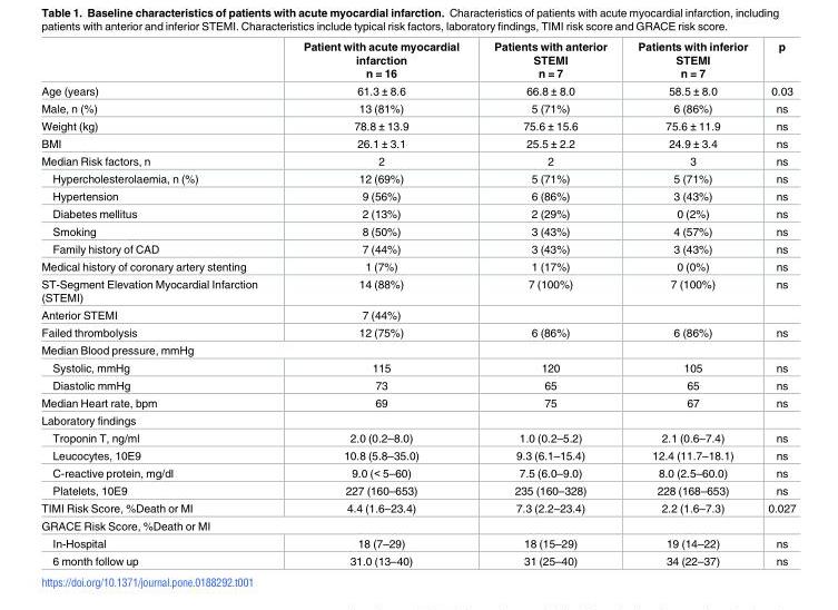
<table><thead><tr><td></td><td>Patient with acute myocardial infarction n = 16</td><td>Patients with anterior STEMI n = 7</td><td>Patients with inferior STEMI n = 7</td><td>p</td></tr></thead><tbody><tr><td>Age (years)</td><td>61.3 ± 8.6</td><td>66.8 ± 8.0</td><td>58.5 ± 8.0</td><td>0.03</td></tr><tr><td>Male, n (%)</td><td>13 (81%)</td><td>5 (71%)</td><td>6 (86%)</td><td>ns</td></tr><tr><td>Weight (kg)</td><td>78.8 ± 13.9</td><td>75.6 ± 15.6</td><td>75.6 ± 11.9</td><td>ns</td></tr><tr><td>BMI</td><td>26.1 ± 3.1</td><td>25.5 ± 2.2</td><td>24.9 ± 3.4</td><td>ns</td></tr><tr><td>Median Risk factors, n</td><td>2</td><td>2</td><td>3</td><td>ns</td></tr><tr><td>Hypercholesterolaemia, n (%)</td><td>12 (69%)</td><td>5 (71%)</td><td>5 (71%)</td><td>ns</td></tr><tr><td>Hypertension</td><td>9 (56%)</td><td>6 (86%)</td><td>3 (43%)</td><td>ns</td></tr><tr><td>Diabetes mellitus</td><td>2 (13%)</td><td>2 (29%)</td><td>0 (2%)</td><td>ns</td></tr><tr><td>Smoking</td><td>8 (50%)</td><td>3 (43%)</td><td>4 (57%)</td><td>ns</td></tr><tr><td>Family history of CAD</td><td>7 (44%)</td><td>3 (43%)</td><td>3 (43%)</td><td>ns</td></tr><tr><td>Medical history of coronary artery stenting</td><td>1 (7%)</td><td>1 (17%)</td><td>0 (0%)</td><td>ns</td></tr><tr><td>ST-Segment Elevation Myocardial Infarction (STEMI)</td><td>14 (88%)</td><td>7 (100%)</td><td>7 (100%)</td><td>ns</td></tr><tr><td>Anterior STEMI</td><td>7 (44%)</td><td></td><td></td><td></td></tr><tr><td>Failed thrombolysis</td><td>12 (75%)</td><td>6 (86%)</td><td>6 (86%)</td><td>ns</td></tr><tr><td colspan="5">Median Blood pressure, mmHg</td></tr><tr><td>Systolic, mmHg</td><td>115</td><td>120</td><td>105</td><td>ns</td></tr><tr><td>Diastolic mmHg</td><td>73</td><td>65</td><td>65</td><td>ns</td></tr><tr><td>Median Heart rate, bpm</td><td>69</td><td>75</td><td>67</td><td>ns</td></tr><tr><td colspan="5">Laboratory findings</td></tr><tr><td>Troponin T, ng/ml</td><td>2.0 (0.2–8.0)</td><td>1.0 (0.2–5.2)</td><td>2.1 (0.6–7.4)</td><td>ns</td></tr><tr><td>Leucocytes, 10E9</td><td>10.8 (5.8–35.0)</td><td>9.3 (6.1–15.4)</td><td>12.4 (11.7–18.1)</td><td>ns</td></tr><tr><td>C-reactive protein, mg/dl</td><td>9.0 (&lt; 5–60)</td><td>7.5 (6.0–9.0)</td><td>8.0 (2.5–60.0)</td><td>ns</td></tr><tr><td>Platelets, 10E9</td><td>227 (160–653)</td><td>235 (160–328)</td><td>228 (168–653)</td><td>ns</td></tr><tr><td>TIMI Risk Score, %Death or MI</td><td>4.4 (1.6–23.4)</td><td>7.3 (2.2–23.4)</td><td>2.2 (1.6–7.3)</td><td>0.027</td></tr><tr><td colspan="5">GRACE Risk Score, %Death or MI</td></tr><tr><td>In-Hospital</td><td>18 (7–29)</td><td>18 (15–29)</td><td>19 (14–22)</td><td>ns</td></tr><tr><td>6 month follow up</td><td>31.0 (13–40)</td><td>31 (25–40)</td><td>34 (22–37)</td><td>ns</td></tr></tbody></table>